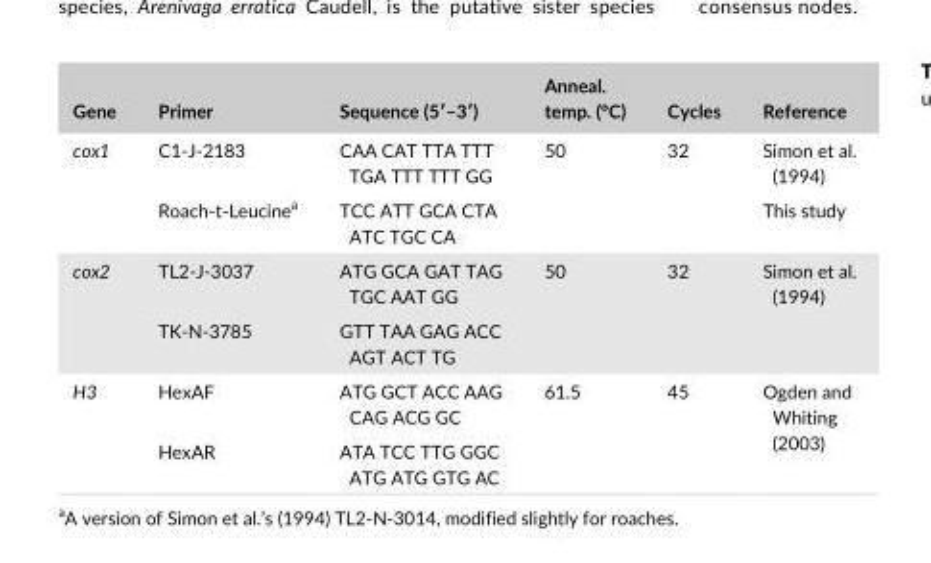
<table><thead><tr><td>Gene</td><td>Primer</td><td>Sequence (5′–3′)</td><td>Anneal. temp. (°C)</td><td>Cycles</td><td>Reference</td></tr></thead><tbody><tr><td rowspan="2">cox1</td><td>C1- J- 2183</td><td>CAA CAT TTA TTT TGA TTT TTT GG</td><td rowspan="2">50</td><td rowspan="2">32</td><td>Simon et al. (1994)</td></tr><tr><td>Roach- t- Leucine<sup>a</sup></td><td>TCC ATT GCA CTA ATC TGC CA</td><td>This study</td></tr><tr><td rowspan="2">cox2</td><td>TL2- J- 3037</td><td>ATG GCA GAT TAG TGC AAT GG</td><td rowspan="2">50</td><td rowspan="2">32</td><td rowspan="2">Simon et al. (1994)</td></tr><tr><td>TK- N- 3785</td><td>GTT TAA GAG ACC AGT ACT TG</td></tr><tr><td rowspan="2">H3</td><td>HexAF</td><td>ATG GCT ACC AAG CAG ACG GC</td><td rowspan="2">61.5</td><td rowspan="2">45</td><td rowspan="2">Ogden and Whiting (2003)</td></tr><tr><td>HexAR</td><td>ATA TCC TTG GGC ATG ATG GTG AC</td></tr></tbody></table>